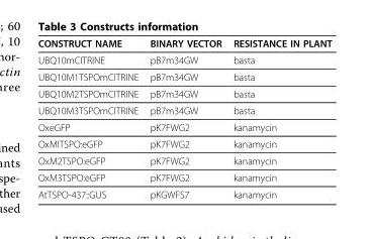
<table><thead><tr><td>CONSTRUCT NAME</td><td>BINARY VECTOR</td><td>RESISTANCE IN PLANT</td></tr></thead><tbody><tr><td>UBQ10mCITRINE</td><td>pB7m34GW</td><td>basta</td></tr><tr><td>UBQ10M1TSPOmCITRINE</td><td>pB7m34GW</td><td>basta</td></tr><tr><td>UBQ10M2TSPOmCITRINE</td><td>pB7m34GW</td><td>basta</td></tr><tr><td>UBQ10M3TSPOmCITRINE</td><td>pB7m34GW</td><td>basta</td></tr><tr><td>OxeGFP</td><td>pK7FWG2</td><td>kanamycin</td></tr><tr><td>OxMITSPO:eGFP</td><td>pK7FWG2</td><td>kanamycin</td></tr><tr><td>OxM2TSPO:eGFP</td><td>pK7FWG2</td><td>kanamycin</td></tr><tr><td>OxM3TSPO:eGFP</td><td>pK7FWG2</td><td>kanamycin</td></tr><tr><td>AtTSPO-437::GUS</td><td>pKGWFS7</td><td>kanamycin</td></tr></tbody></table>